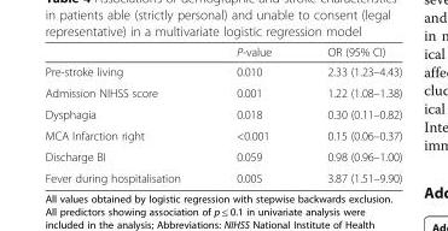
<table><thead><tr><td></td><td>P-value</td><td>OR (95% CI)</td></tr></thead><tbody><tr><td>Pre-stroke living</td><td>0.010</td><td>2.33 (1.23–4.43)</td></tr><tr><td>Admission NIHSS score</td><td>0.001</td><td>1.22 (1.08–1.38)</td></tr><tr><td>Dysphagia</td><td>0.018</td><td>0.30 (0.11–0.82)</td></tr><tr><td>MCA Infarction right</td><td>&lt;0.001</td><td>0.15 (0.06–0.37)</td></tr><tr><td>Discharge BI</td><td>0.059</td><td>0.98 (0.96–1.00)</td></tr><tr><td>Fever during hospitalisation</td><td>0.005</td><td>3.87 (1.51–9.90)</td></tr></tbody></table>